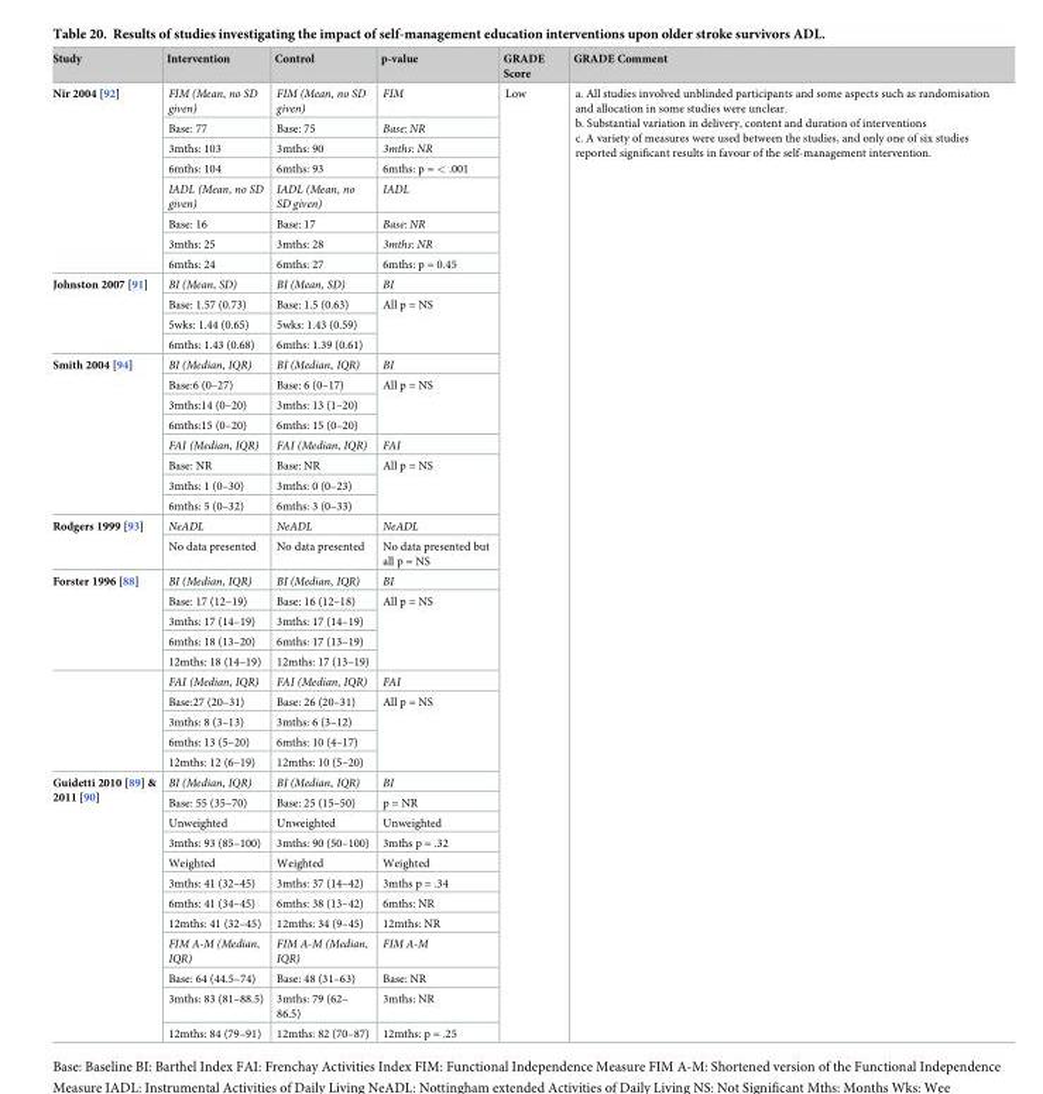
<table><thead><tr><td>Study</td><td>Intervention</td><td>Control</td><td>p-value</td><td>GRADE Score</td><td>GRADE Comment</td></tr></thead><tbody><tr><td rowspan="8">Nir 2004 [92]</td><td>FIM (Mean, no SD given)</td><td>FIM (Mean, no SD given)</td><td>FIM</td><td rowspan="44">Low</td><td rowspan="44">a. All studies involved unblinded participants and some aspects such as randomisation and allocation in some studies were unclear. b. Substantial variation in delivery, content and duration of interventions c. A variety of measures were used between the studies, and only one of six studies reported significant results in favour of the self-management intervention.</td></tr><tr><td>Base: 77</td><td>Base: 75</td><td>Base: NR</td></tr><tr><td>3mths: 103</td><td>3mths: 90</td><td>3mths: NR</td></tr><tr><td>6mths: 104</td><td>6mths: 93</td><td>6mths: p = &lt; .001</td></tr><tr><td>IADL (Mean, no SD given)</td><td>IADL (Mean, no SD given)</td><td>IADL</td></tr><tr><td>Base: 16</td><td>Base: 17</td><td>Base: NR</td></tr><tr><td>3mths: 25</td><td>3mths: 28</td><td>3mths: NR</td></tr><tr><td>6mths: 24</td><td>6mths: 27</td><td>6mths: p = 0.45</td></tr><tr><td rowspan="4">Johnston 2007 [91]</td><td>BI (Mean, SD)</td><td>BI (Mean, SD)</td><td>BI</td></tr><tr><td>Base: 1.57 (0.73)</td><td>Base: 1.5 (0.63)</td><td rowspan="3">All p = NS</td></tr><tr><td>5wks: 1.44 (0.65)</td><td>5wks: 1.43 (0.59)</td></tr><tr><td>6mths: 1.43 (0.68)</td><td>6mths: 1.39 (0.61)</td></tr><tr><td rowspan="8">Smith 2004 [94]</td><td>BI (Median, IQR)</td><td>BI (Median, IQR)</td><td>BI</td></tr><tr><td>Base:6 (0–27)</td><td>Base: 6 (0–17)</td><td rowspan="3">All p = NS</td></tr><tr><td>3mths:14 (0–20)</td><td>3mths: 13 (1–20)</td></tr><tr><td>6mths:15 (0–20)</td><td>6mths: 15 (0–20)</td></tr><tr><td>FAI (Median, IQR)</td><td>FAI (Median, IQR)</td><td>FAI</td></tr><tr><td>Base: NR</td><td>Base: NR</td><td rowspan="3">All p = NS</td></tr><tr><td>3mths: 1 (0–30)</td><td>3mths: 0 (0–23)</td></tr><tr><td>6mths: 5 (0–32)</td><td>6mths: 3 (0–33)</td></tr><tr><td rowspan="2">Rodgers 1999 [93]</td><td>NeADL</td><td>NeADL</td><td>NeADL</td></tr><tr><td>No data presented</td><td>No data presented</td><td>No data presented but all p = NS</td></tr><tr><td rowspan="10">Forster 1996 [88]</td><td>BI (Median, IQR)</td><td>BI (Median, IQR)</td><td>BI</td></tr><tr><td>Base: 17 (12–19)</td><td>Base: 16 (12–18)</td><td rowspan="4">All p = NS</td></tr><tr><td>3mths: 17 (14–19)</td><td>3mths: 17 (14–19)</td></tr><tr><td>6mths: 18 (13–20)</td><td>6mths: 17 (13–19)</td></tr><tr><td>12mths: 18 (14–19)</td><td>12mths: 17 (13–19)</td></tr><tr><td>FAI (Median, IQR)</td><td>FAI (Median, IQR)</td><td>FAI</td></tr><tr><td>Base:27 (20–31)</td><td>Base: 26 (20–31)</td><td rowspan="4">All p = NS</td></tr><tr><td>3mths: 8 (3–13)</td><td>3mths: 6 (3–12)</td></tr><tr><td>6mths: 13 (5–20)</td><td>6mths: 10 (4–17)</td></tr><tr><td>12mths: 12 (6–19)</td><td>12mths: 10 (5–20)</td></tr><tr><td rowspan="12">Guidetti 2010 [89] &amp; 2011 [90]</td><td>BI (Median, IQR)</td><td>BI (Median, IQR)</td><td>BI</td></tr><tr><td>Base: 55 (35–70)</td><td>Base: 25 (15–50)</td><td>p = NR</td></tr><tr><td>Unweighted</td><td>Unweighted</td><td>Unweighted</td></tr><tr><td>3mths: 93 (85–100)</td><td>3mths: 90 (50–100)</td><td>3mths p = .32</td></tr><tr><td>Weighted</td><td>Weighted</td><td>Weighted</td></tr><tr><td>3mths: 41 (32–45)</td><td>3mths: 37 (14–42)</td><td>3mths p = .34</td></tr><tr><td>6mths: 41 (34–45)</td><td>6mths: 38 (13–42)</td><td>6mths: NR</td></tr><tr><td>12mths: 41 (32–45)</td><td>12mths: 34 (9–45)</td><td>12mths: NR</td></tr><tr><td>FIM A-M (Median, IQR)</td><td>FIM A-M (Median, IQR)</td><td>FIM A-M</td></tr><tr><td>Base: 64 (44.5–74)</td><td>Base: 48 (31–63)</td><td>Base: NR</td></tr><tr><td>3mths: 83 (81–88.5)</td><td>3mths: 79 (62– 86.5)</td><td>3mths: NR</td></tr><tr><td>12mths: 84 (79–91)</td><td>12mths: 82 (70–87)</td><td>12mths: p = .25</td></tr></tbody></table>